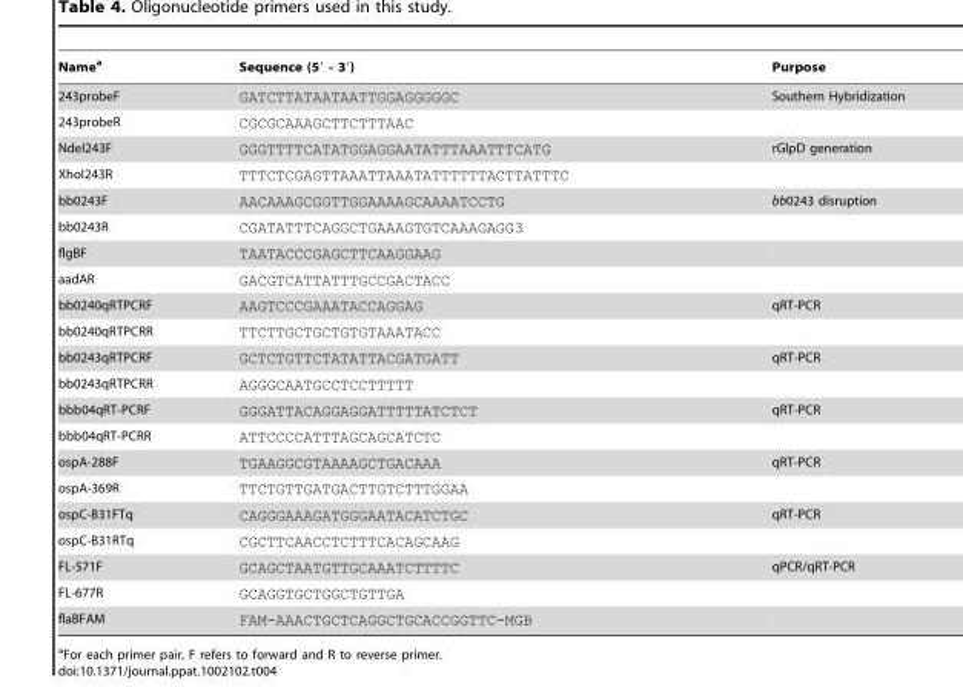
<table><thead><tr><td>Name<sup>a</sup></td><td>Sequence (5′ - 3′)</td><td>Purpose</td></tr></thead><tbody><tr><td>243probeF</td><td>GATCTTATAATAATTGGAGGGGGC</td><td>Southern Hybridization</td></tr><tr><td>243probeR</td><td>CGCGCAAAGCTTCTTTAAC</td><td></td></tr><tr><td>NdeI243F</td><td>GGGTTTTCATATGGAGGAATATTTAAATTTCATG</td><td>rGlpD generation</td></tr><tr><td>XhoI243R</td><td>TTTCTCGAGTTAAATTAAATATTTTTTACTTATTTC</td><td></td></tr><tr><td>bb0243F</td><td>AACAAAGCGGTTGGAAAAGCAAAATCCTG</td><td>bb0243 disruption</td></tr><tr><td>bb0243R</td><td>CGATATTTCAGGCTGAAAGTGTCAAAGAGG3</td><td></td></tr><tr><td>flgBF</td><td>TAATACCCGAGCTTCAAGGAAG</td><td></td></tr><tr><td>aadAR</td><td>GACGTCATTATTTGCCGACTACC</td><td></td></tr><tr><td>bb0240qRTPCRF</td><td>AAGTCCCGAAATACCAGGAG</td><td>qRT-PCR</td></tr><tr><td>bb0240qRTPCRR</td><td>TTCTTGCTGCTGTGTAAATACC</td><td></td></tr><tr><td>bb0243qRTPCRF</td><td>GCTCTGTTCTATATTACGATGATT</td><td>qRT-PCR</td></tr><tr><td>bb0243qRTPCRR</td><td>AGGGCAATGCCTCCTTTTT</td><td></td></tr><tr><td>bbb04qRT-PCRF</td><td>GGGATTACAGGAGGATTTTTATCTCT</td><td>qRT-PCR</td></tr><tr><td>bbb04qRT-PCRR</td><td>ATTCCCCATTTAGCAGCATCTC</td><td></td></tr><tr><td>ospA-288F</td><td>TGAAGGCGTAAAAGCTGACAAA</td><td>qRT-PCR</td></tr><tr><td>ospA-369R</td><td>TTCTGTTGATGACTTGTCTTTGGAA</td><td></td></tr><tr><td>ospC-B31FTq</td><td>CAGGGAAAGATGGGAATACATCTGC</td><td>qRT-PCR</td></tr><tr><td>ospC-B31RTq</td><td>CGCTTCAACCTCTTTCACAGCAAG</td><td></td></tr><tr><td>FL-571F</td><td>GCAGCTAATGTTGCAAATCTTTTC</td><td>qPCR/qRT-PCR</td></tr><tr><td>FL-677R</td><td>GCAGGTGCTGGCTGTTGA</td><td></td></tr><tr><td>flaBFAM</td><td>FAM-AAACTGCTCAGGCTGCACCGGTTC-MGB</td><td></td></tr></tbody></table>